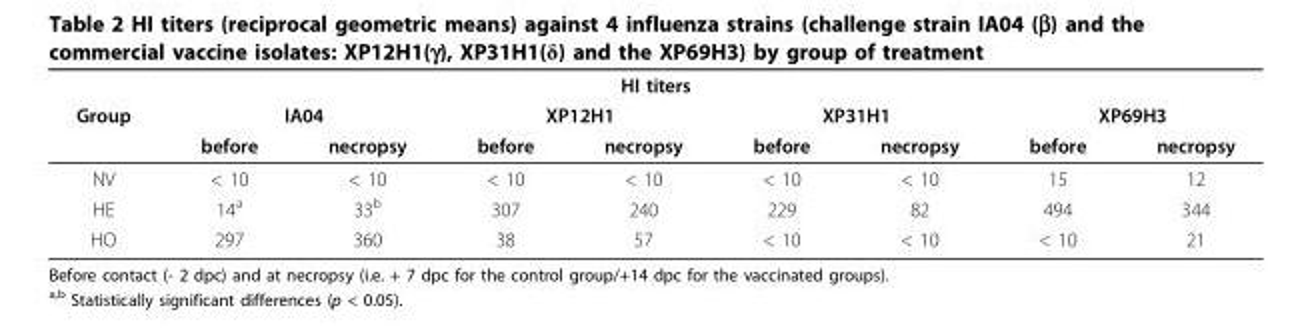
<table><thead><tr><td colspan="9">HI titers</td></tr><tr><td rowspan="2">Group</td><td colspan="2">IA04</td><td colspan="2">XP12H1</td><td colspan="2">XP31H1</td><td colspan="2">XP69H3</td></tr><tr><td>before</td><td>necropsy</td><td>before</td><td>necropsy</td><td>before</td><td>necropsy</td><td>before</td><td>necropsy</td></tr></thead><tbody><tr><td>NV</td><td>&lt; 10</td><td>&lt; 10</td><td>&lt; 10</td><td>&lt; 10</td><td>&lt; 10</td><td>&lt; 10</td><td>15</td><td>12</td></tr><tr><td>HE</td><td>14<sup>a</sup></td><td>33<sup>b</sup></td><td>307</td><td>240</td><td>229</td><td>82</td><td>494</td><td>344</td></tr><tr><td>HO</td><td>297</td><td>360</td><td>38</td><td>57</td><td>&lt; 10</td><td>&lt; 10</td><td>&lt; 10</td><td>21</td></tr></tbody></table>